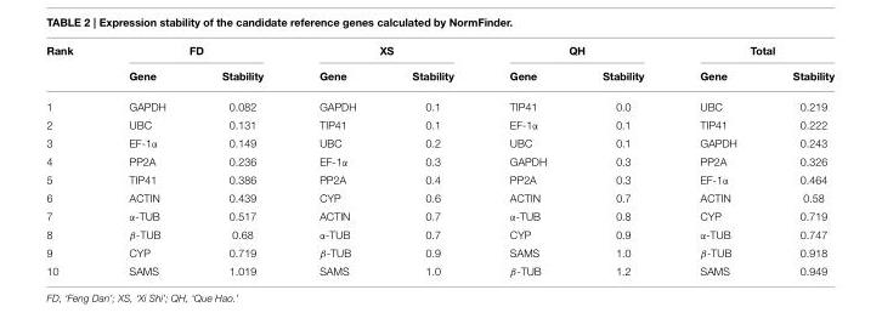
<table><thead><tr><td rowspan="2">Rank</td><td colspan="2">FD</td><td colspan="2">XS</td><td colspan="2">QH</td><td colspan="2">Total</td></tr><tr><td>Gene</td><td>Stability</td><td>Gene</td><td>Stability</td><td>Gene</td><td>Stability</td><td>Gene</td><td>Stability</td></tr></thead><tbody><tr><td>1</td><td>GAPDH</td><td>0.082</td><td>GAPDH</td><td>0.1</td><td>TIP41</td><td>0.0</td><td>UBC</td><td>0.219</td></tr><tr><td>2</td><td>UBC</td><td>0.131</td><td>TIP41</td><td>0.1</td><td>EF-1α</td><td>0.1</td><td>TIP41</td><td>0.222</td></tr><tr><td>3</td><td>EF-1α</td><td>0.149</td><td>UBC</td><td>0.2</td><td>UBC</td><td>0.1</td><td>GAPDH</td><td>0.243</td></tr><tr><td>4</td><td>PP2A</td><td>0.236</td><td>EF-1α</td><td>0.3</td><td>GAPDH</td><td>0.3</td><td>PP2A</td><td>0.326</td></tr><tr><td>5</td><td>TIP41</td><td>0.386</td><td>PP2A</td><td>0.4</td><td>PP2A</td><td>0.3</td><td>EF-1α</td><td>0.464</td></tr><tr><td>6</td><td>ACTIN</td><td>0.439</td><td>CYP</td><td>0.6</td><td>ACTIN</td><td>0.7</td><td>ACTIN</td><td>0.58</td></tr><tr><td>7</td><td>α-TUB</td><td>0.517</td><td>ACTIN</td><td>0.7</td><td>α-TUB</td><td>0.8</td><td>CYP</td><td>0.719</td></tr><tr><td>8</td><td>β-TUB</td><td>0.68</td><td>α-TUB</td><td>0.7</td><td>CYP</td><td>0.9</td><td>α-TUB</td><td>0.747</td></tr><tr><td>9</td><td>CYP</td><td>0.719</td><td>β-TUB</td><td>0.9</td><td>SAMS</td><td>1.0</td><td>β-TUB</td><td>0.918</td></tr><tr><td>10</td><td>SAMS</td><td>1.019</td><td>SAMS</td><td>1.0</td><td>β-TUB</td><td>1.2</td><td>SAMS</td><td>0.949</td></tr></tbody></table>